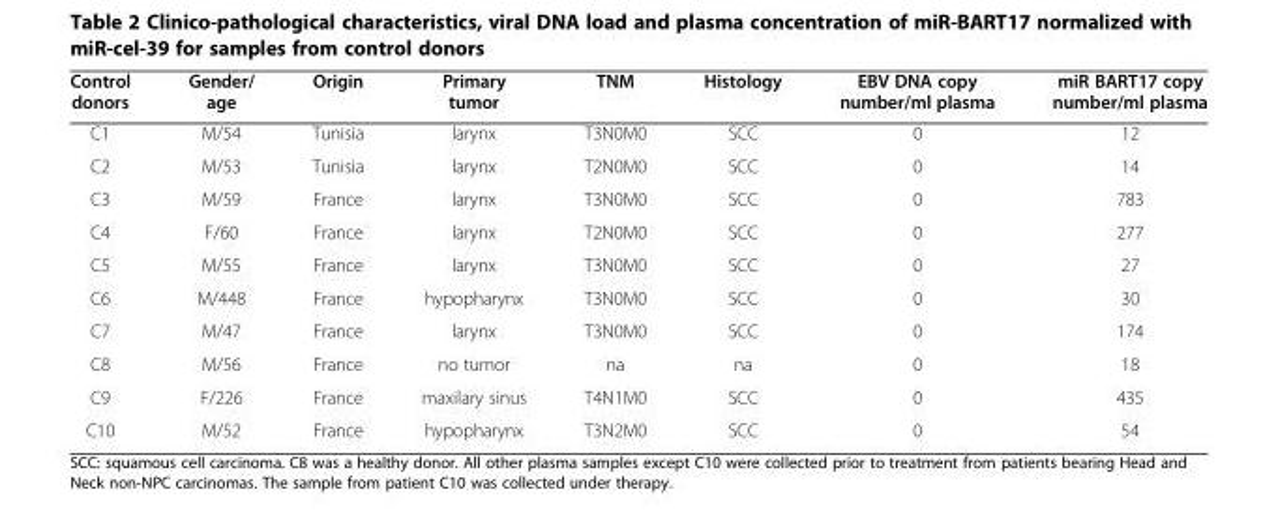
<table><thead><tr><td>Control donors</td><td>Gender/ age</td><td>Origin</td><td>Primary tumor</td><td>TNM</td><td>Histology</td><td>EBV DNA copy number/ml plasma</td><td>miR BART17 copy number/ml plasma</td></tr></thead><tbody><tr><td>C1</td><td>M/54</td><td>Tunisia</td><td>larynx</td><td>T3N0M0</td><td>SCC</td><td>0</td><td>12</td></tr><tr><td>C2</td><td>M/53</td><td>Tunisia</td><td>larynx</td><td>T2N0M0</td><td>SCC</td><td>0</td><td>14</td></tr><tr><td>C3</td><td>M/59</td><td>France</td><td>larynx</td><td>T3N0M0</td><td>SCC</td><td>0</td><td>783</td></tr><tr><td>C4</td><td>F/60</td><td>France</td><td>larynx</td><td>T2N0M0</td><td>SCC</td><td>0</td><td>277</td></tr><tr><td>C5</td><td>M/55</td><td>France</td><td>larynx</td><td>T3N0M0</td><td>SCC</td><td>0</td><td>27</td></tr><tr><td>C6</td><td>M/448</td><td>France</td><td>hypopharynx</td><td>T3N0M0</td><td>SCC</td><td>0</td><td>30</td></tr><tr><td>C7</td><td>M/47</td><td>France</td><td>larynx</td><td>T3N0M0</td><td>SCC</td><td>0</td><td>174</td></tr><tr><td>C8</td><td>M/56</td><td>France</td><td>no tumor</td><td>na</td><td>na</td><td>0</td><td>18</td></tr><tr><td>C9</td><td>F/226</td><td>France</td><td>maxilary sinus</td><td>T4N1M0</td><td>SCC</td><td>0</td><td>435</td></tr><tr><td>C10</td><td>M/52</td><td>France</td><td>hypopharynx</td><td>T3N2M0</td><td>SCC</td><td>0</td><td>54</td></tr></tbody></table>